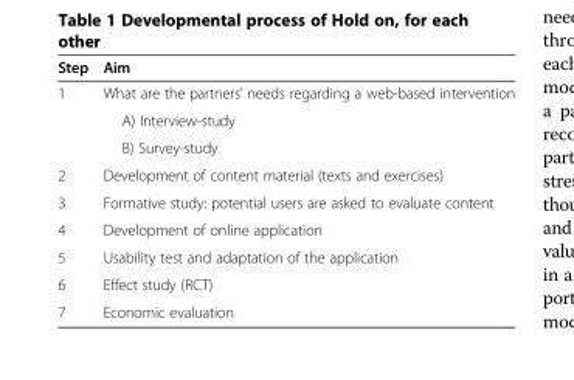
<table><thead><tr><td>Step</td><td>Aim</td></tr></thead><tbody><tr><td rowspan="3">1</td><td>What are the partners’ needs regarding a web-based intervention</td></tr><tr><td>A) Interview-study</td></tr><tr><td>B) Survey-study</td></tr><tr><td>2</td><td>Development of content material (texts and exercises)</td></tr><tr><td>3</td><td>Formative study: potential users are asked to evaluate content</td></tr><tr><td>4</td><td>Development of online application</td></tr><tr><td>5</td><td>Usability test and adaptation of the application</td></tr><tr><td>6</td><td>Effect study (RCT)</td></tr><tr><td>7</td><td>Economic evaluation</td></tr></tbody></table>